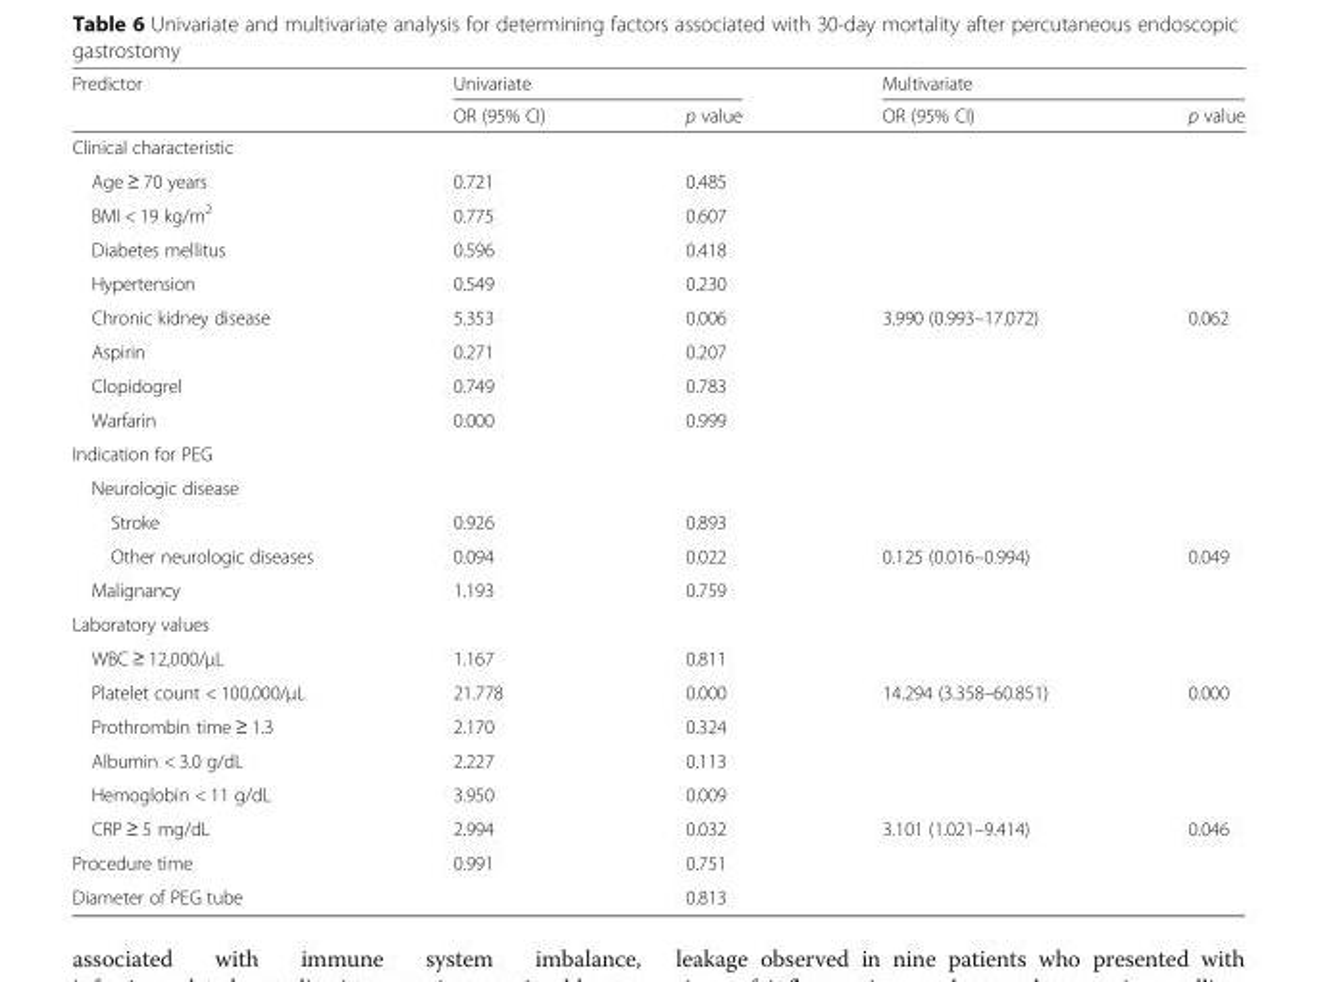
<table><thead><tr><td rowspan="2">Predictor</td><td colspan="2">Univariate</td><td colspan="2">Multivariate</td></tr><tr><td>OR (95% CI)</td><td>p value</td><td>OR (95% CI)</td><td>p value</td></tr></thead><tbody><tr><td colspan="5">Clinical characteristic</td></tr><tr><td>Age ≥ 70 years</td><td>0.721</td><td>0.485</td><td></td><td></td></tr><tr><td>BMI &lt; 19 kg/m<sup>2</sup></td><td>0.775</td><td>0.607</td><td></td><td></td></tr><tr><td>Diabetes mellitus</td><td>0.596</td><td>0.418</td><td></td><td></td></tr><tr><td>Hypertension</td><td>0.549</td><td>0.230</td><td></td><td></td></tr><tr><td>Chronic kidney disease</td><td>5.353</td><td>0.006</td><td>3.990 (0.993–17.072)</td><td>0.062</td></tr><tr><td>Aspirin</td><td>0.271</td><td>0.207</td><td></td><td></td></tr><tr><td>Clopidogrel</td><td>0.749</td><td>0.783</td><td></td><td></td></tr><tr><td>Warfarin</td><td>0.000</td><td>0.999</td><td></td><td></td></tr><tr><td colspan="5">Indication for PEG</td></tr><tr><td colspan="5">Neurologic disease</td></tr><tr><td>Stroke</td><td>0.926</td><td>0.893</td><td></td><td></td></tr><tr><td>Other neurologic diseases</td><td>0.094</td><td>0.022</td><td>0.125 (0.016–0.994)</td><td>0.049</td></tr><tr><td>Malignancy</td><td>1.193</td><td>0.759</td><td></td><td></td></tr><tr><td colspan="5">Laboratory values</td></tr><tr><td>WBC ≥ 12,000/μL</td><td>1.167</td><td>0.811</td><td></td><td></td></tr><tr><td>Platelet count &lt; 100,000/μL</td><td>21.778</td><td>0.000</td><td>14.294 (3.358–60.851)</td><td>0.000</td></tr><tr><td>Prothrombin time ≥ 1.3</td><td>2.170</td><td>0.324</td><td></td><td></td></tr><tr><td>Albumin &lt; 3.0 g/dL</td><td>2.227</td><td>0.113</td><td></td><td></td></tr><tr><td>Hemoglobin &lt; 11 g/dL</td><td>3.950</td><td>0.009</td><td></td><td></td></tr><tr><td>CRP ≥ 5 mg/dL</td><td>2.994</td><td>0.032</td><td>3.101 (1.021–9.414)</td><td>0.046</td></tr><tr><td>Procedure time</td><td>0.991</td><td>0.751</td><td></td><td></td></tr><tr><td>Diameter of PEG tube</td><td></td><td>0.813</td><td></td><td></td></tr></tbody></table>